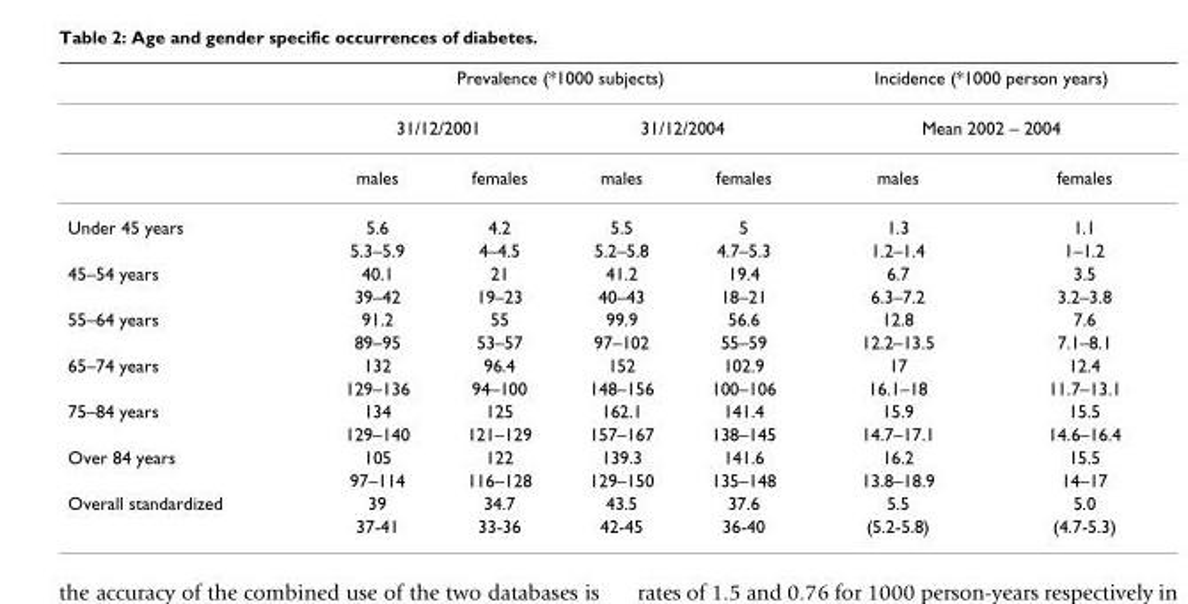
<table><thead><tr><td rowspan="3"></td><td colspan="4">Prevalence (*1000 subjects)</td><td rowspan="2" colspan="2">Incidence (*1000 person years) Mean 2002 – 2004</td></tr><tr><td colspan="2">31/12/2001</td><td colspan="2">31/12/2004</td></tr><tr><td>males</td><td>females</td><td>males</td><td>females</td><td>males</td><td>females</td></tr></thead><tbody><tr><td rowspan="2">Under 45 years</td><td>5.6</td><td>4.2</td><td>5.5</td><td>5</td><td>1.3</td><td>1.1</td></tr><tr><td>5.3–5.9</td><td>4–4.5</td><td>5.2–5.8</td><td>4.7–5.3</td><td>1.2–1.4</td><td>1–1.2</td></tr><tr><td rowspan="2">45–54 years</td><td>40.1</td><td>21</td><td>41.2</td><td>19.4</td><td>6.7</td><td>3.5</td></tr><tr><td>39–42</td><td>19–23</td><td>40–43</td><td>18–21</td><td>6.3–7.2</td><td>3.2–3.8</td></tr><tr><td rowspan="2">55–64 years</td><td>91.2</td><td>55</td><td>99.9</td><td>56.6</td><td>12.8</td><td>7.6</td></tr><tr><td>89–95</td><td>53–57</td><td>97–102</td><td>55–59</td><td>12.2–13.5</td><td>7.1–8.1</td></tr><tr><td rowspan="2">65–74 years</td><td>132</td><td>96.4</td><td>152</td><td>102.9</td><td>17</td><td>12.4</td></tr><tr><td>129–136</td><td>94–100</td><td>148–156</td><td>100–106</td><td>16.1–18</td><td>11.7–13.1</td></tr><tr><td rowspan="2">75–84 years</td><td>134</td><td>125</td><td>162.1</td><td>141.4</td><td>15.9</td><td>15.5</td></tr><tr><td>129–140</td><td>121–129</td><td>157–167</td><td>138–145</td><td>14.7–17.1</td><td>14.6–16.4</td></tr><tr><td rowspan="2">Over 84 years</td><td>105</td><td>122</td><td>139.3</td><td>141.6</td><td>16.2</td><td>15.5</td></tr><tr><td>97–114</td><td>116–128</td><td>129–150</td><td>135–148</td><td>13.8–18.9</td><td>14–17</td></tr><tr><td rowspan="2">Overall standardized</td><td>39</td><td>34.7</td><td>43.5</td><td>37.6</td><td>5.5</td><td>5.0</td></tr><tr><td>37-41</td><td>33-36</td><td>42-45</td><td>36-40</td><td>(5.2-5.8)</td><td>(4.7-5.3)</td></tr></tbody></table>